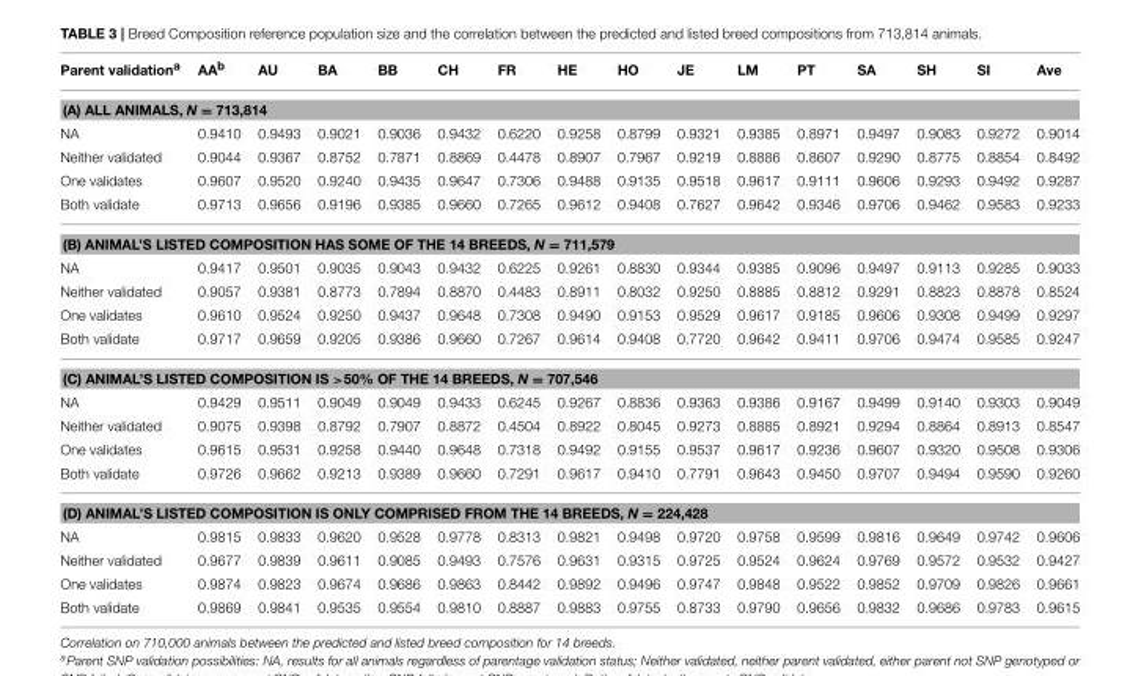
<table><thead><tr><td>Parent validation<sup>a</sup></td><td>AA<sup>b</sup></td><td>AU</td><td>BA</td><td>BB</td><td>CH</td><td>FR</td><td>HE</td><td>HO</td><td>JE</td><td>LM</td><td>PT</td><td>SA</td><td>SH</td><td>SI</td><td>Ave</td></tr></thead><tbody><tr><td colspan="16">(A) ALL ANIMALS, N = 713,814</td></tr><tr><td>NA</td><td>0.9410</td><td>0.9493</td><td>0.9021</td><td>0.9036</td><td>0.9432</td><td>0.6220</td><td>0.9258</td><td>0.8799</td><td>0.9321</td><td>0.9385</td><td>0.8971</td><td>0.9497</td><td>0.9083</td><td>0.9272</td><td>0.9014</td></tr><tr><td>Neither validated</td><td>0.9044</td><td>0.9367</td><td>0.8752</td><td>0.7871</td><td>0.8869</td><td>0.4478</td><td>0.8907</td><td>0.7967</td><td>0.9219</td><td>0.8886</td><td>0.8607</td><td>0.9290</td><td>0.8775</td><td>0.8854</td><td>0.8492</td></tr><tr><td>One validates</td><td>0.9607</td><td>0.9520</td><td>0.9240</td><td>0.9435</td><td>0.9647</td><td>0.7306</td><td>0.9488</td><td>0.9135</td><td>0.9518</td><td>0.9617</td><td>0.9111</td><td>0.9606</td><td>0.9293</td><td>0.9492</td><td>0.9287</td></tr><tr><td>Both validate</td><td>0.9713</td><td>0.9656</td><td>0.9196</td><td>0.9385</td><td>0.9660</td><td>0.7265</td><td>0.9612</td><td>0.9408</td><td>0.7627</td><td>0.9642</td><td>0.9346</td><td>0.9706</td><td>0.9462</td><td>0.9583</td><td>0.9233</td></tr><tr><td colspan="16">(B) ANIMAL’S LISTED COMPOSITION HAS SOME OF THE 14 BREEDS, N = 711,579</td></tr><tr><td>NA</td><td>0.9417</td><td>0.9501</td><td>0.9035</td><td>0.9043</td><td>0.9432</td><td>0.6225</td><td>0.9261</td><td>0.8830</td><td>0.9344</td><td>0.9385</td><td>0.9096</td><td>0.9497</td><td>0.9113</td><td>0.9285</td><td>0.9033</td></tr><tr><td>Neither validated</td><td>0.9057</td><td>0.9381</td><td>0.8773</td><td>0.7894</td><td>0.8870</td><td>0.4483</td><td>0.8911</td><td>0.8032</td><td>0.9250</td><td>0.8885</td><td>0.8812</td><td>0.9291</td><td>0.8823</td><td>0.8878</td><td>0.8524</td></tr><tr><td>One validates</td><td>0.9610</td><td>0.9524</td><td>0.9250</td><td>0.9437</td><td>0.9648</td><td>0.7308</td><td>0.9490</td><td>0.9153</td><td>0.9529</td><td>0.9617</td><td>0.9185</td><td>0.9606</td><td>0.9308</td><td>0.9499</td><td>0.9297</td></tr><tr><td>Both validate</td><td>0.9717</td><td>0.9659</td><td>0.9205</td><td>0.9386</td><td>0.9660</td><td>0.7267</td><td>0.9614</td><td>0.9408</td><td>0.7720</td><td>0.9642</td><td>0.9411</td><td>0.9706</td><td>0.9474</td><td>0.9585</td><td>0.9247</td></tr><tr><td colspan="16">(C) ANIMAL’S LISTED COMPOSITION IS &gt;50% OF THE 14 BREEDS, N = 707,546</td></tr><tr><td>NA</td><td>0.9429</td><td>0.9511</td><td>0.9049</td><td>0.9049</td><td>0.9433</td><td>0.6245</td><td>0.9267</td><td>0.8836</td><td>0.9363</td><td>0.9386</td><td>0.9167</td><td>0.9499</td><td>0.9140</td><td>0.9303</td><td>0.9049</td></tr><tr><td>Neither validated</td><td>0.9075</td><td>0.9398</td><td>0.8792</td><td>0.7907</td><td>0.8872</td><td>0.4504</td><td>0.8922</td><td>0.8045</td><td>0.9273</td><td>0.8885</td><td>0.8921</td><td>0.9294</td><td>0.8864</td><td>0.8913</td><td>0.8547</td></tr><tr><td>One validates</td><td>0.9615</td><td>0.9531</td><td>0.9258</td><td>0.9440</td><td>0.9648</td><td>0.7318</td><td>0.9492</td><td>0.9155</td><td>0.9537</td><td>0.9617</td><td>0.9236</td><td>0.9607</td><td>0.9320</td><td>0.9508</td><td>0.9306</td></tr><tr><td>Both validate</td><td>0.9726</td><td>0.9662</td><td>0.9213</td><td>0.9389</td><td>0.9660</td><td>0.7291</td><td>0.9617</td><td>0.9410</td><td>0.7791</td><td>0.9643</td><td>0.9450</td><td>0.9707</td><td>0.9494</td><td>0.9590</td><td>0.9260</td></tr><tr><td colspan="16">(D) ANIMAL’S LISTED COMPOSITION IS ONLY COMPRISED FROM THE 14 BREEDS, N = 224,428</td></tr><tr><td>NA</td><td>0.9815</td><td>0.9833</td><td>0.9620</td><td>0.9528</td><td>0.9778</td><td>0.8313</td><td>0.9821</td><td>0.9498</td><td>0.9720</td><td>0.9758</td><td>0.9599</td><td>0.9816</td><td>0.9649</td><td>0.9742</td><td>0.9606</td></tr><tr><td>Neither validated</td><td>0.9677</td><td>0.9839</td><td>0.9611</td><td>0.9085</td><td>0.9493</td><td>0.7576</td><td>0.9631</td><td>0.9315</td><td>0.9725</td><td>0.9524</td><td>0.9624</td><td>0.9769</td><td>0.9572</td><td>0.9532</td><td>0.9427</td></tr><tr><td>One validates</td><td>0.9874</td><td>0.9823</td><td>0.9674</td><td>0.9686</td><td>0.9863</td><td>0.8442</td><td>0.9892</td><td>0.9496</td><td>0.9747</td><td>0.9848</td><td>0.9522</td><td>0.9852</td><td>0.9709</td><td>0.9826</td><td>0.9661</td></tr><tr><td>Both validate</td><td>0.9869</td><td>0.9841</td><td>0.9535</td><td>0.9554</td><td>0.9810</td><td>0.8887</td><td>0.9883</td><td>0.9755</td><td>0.8733</td><td>0.9790</td><td>0.9656</td><td>0.9832</td><td>0.9686</td><td>0.9783</td><td>0.9615</td></tr></tbody></table>